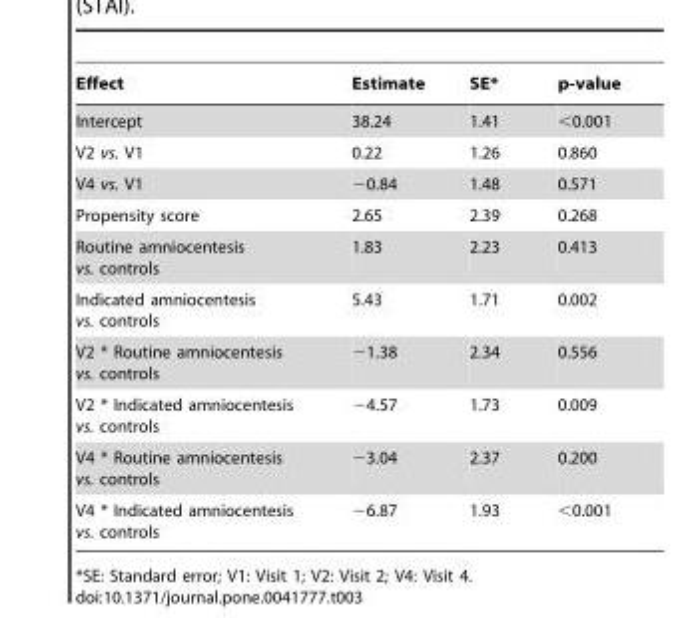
<table><thead><tr><td>Effect</td><td>Estimate</td><td>SE*</td><td>p-value</td></tr></thead><tbody><tr><td>Intercept</td><td>38.24</td><td>1.41</td><td>&lt;0.001</td></tr><tr><td>V2 vs. V1</td><td>0.22</td><td>1.26</td><td>0.860</td></tr><tr><td>V4 vs. V1</td><td>−0.84</td><td>1.48</td><td>0.571</td></tr><tr><td>Propensity score</td><td>2.65</td><td>2.39</td><td>0.268</td></tr><tr><td>Routine amniocentesis vs. controls</td><td>1.83</td><td>2.23</td><td>0.413</td></tr><tr><td>Indicated amniocentesis vs. controls</td><td>5.43</td><td>1.71</td><td>0.002</td></tr><tr><td>V2 * Routine amniocentesis vs. controls</td><td>−1.38</td><td>2.34</td><td>0.556</td></tr><tr><td>V2 * Indicated amniocentesis vs. controls</td><td>−4.57</td><td>1.73</td><td>0.009</td></tr><tr><td>V4 * Routine amniocentesis vs. controls</td><td>−3.04</td><td>2.37</td><td>0.200</td></tr><tr><td>V4 * Indicated amniocentesis vs. controls</td><td>−6.87</td><td>1.93</td><td>&lt;0.001</td></tr></tbody></table>